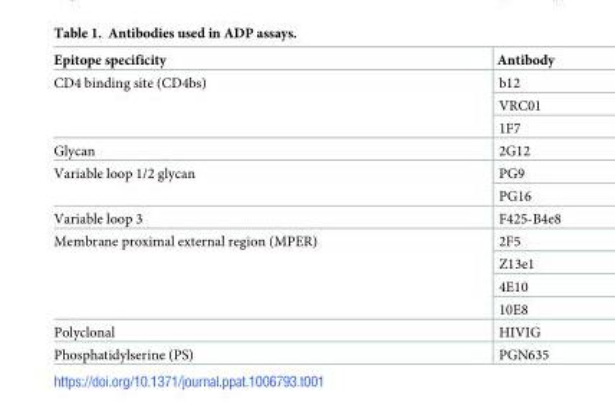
<table><thead><tr><td>Epitope specificity</td><td>Antibody</td></tr></thead><tbody><tr><td rowspan="3">CD4 binding site (CD4bs)</td><td>b12</td></tr><tr><td>VRC01</td></tr><tr><td>1F7</td></tr><tr><td>Glycan</td><td>2G12</td></tr><tr><td rowspan="2">Variable loop 1/2 glycan</td><td>PG9</td></tr><tr><td>PG16</td></tr><tr><td>Variable loop 3</td><td>F425-B4e8</td></tr><tr><td rowspan="4">Membrane proximal external region (MPER)</td><td>2F5</td></tr><tr><td>Z13e1</td></tr><tr><td>4E10</td></tr><tr><td>10E8</td></tr><tr><td>Polyclonal</td><td>HIVIG</td></tr><tr><td>Phosphatidylserine (PS)</td><td>PGN635</td></tr></tbody></table>